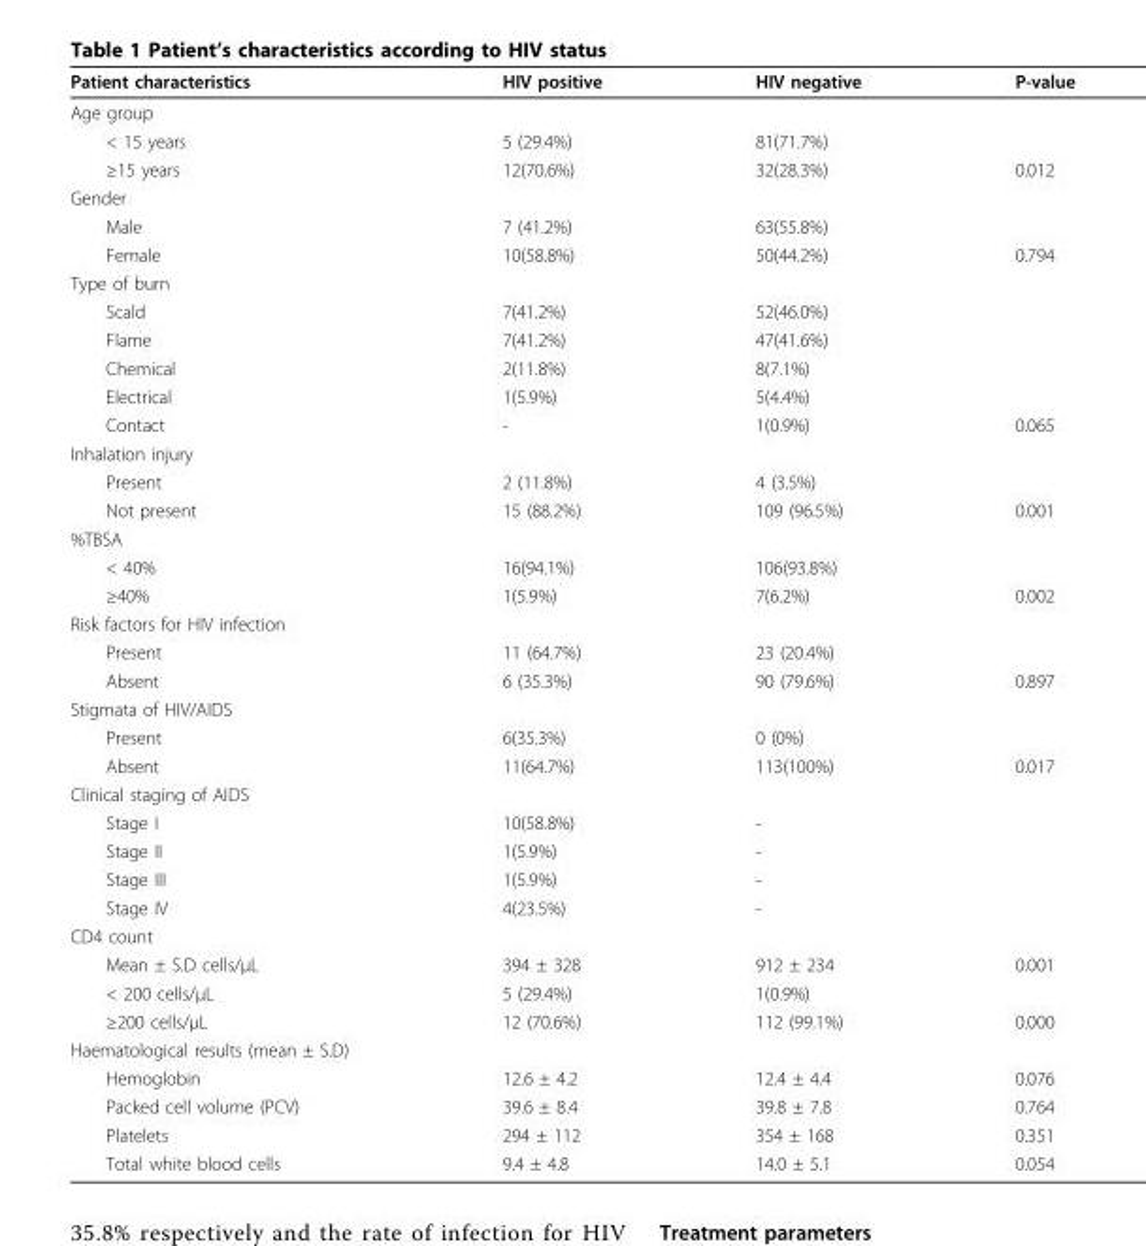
<table><thead><tr><td>Patient characteristics</td><td>HIV positive</td><td>HIV negative</td><td>P-value</td></tr></thead><tbody><tr><td colspan="4">Age group</td></tr><tr><td>&lt; 15 years</td><td>5 (29.4%)</td><td>81(71.7%)</td><td></td></tr><tr><td>≥15 years</td><td>12(70.6%)</td><td>32(28.3%)</td><td>0.012</td></tr><tr><td colspan="4">Gender</td></tr><tr><td>Male</td><td>7 (41.2%)</td><td>63(55.8%)</td><td></td></tr><tr><td>Female</td><td>10(58.8%)</td><td>50(44.2%)</td><td>0.794</td></tr><tr><td colspan="4">Type of burn</td></tr><tr><td>Scald</td><td>7(41.2%)</td><td>52(46.0%)</td><td></td></tr><tr><td>Flame</td><td>7(41.2%)</td><td>47(41.6%)</td><td></td></tr><tr><td>Chemical</td><td>2(11.8%)</td><td>8(7.1%)</td><td></td></tr><tr><td>Electrical</td><td>1(5.9%)</td><td>5(4.4%)</td><td></td></tr><tr><td>Contact</td><td>-</td><td>1(0.9%)</td><td>0.065</td></tr><tr><td colspan="4">Inhalation injury</td></tr><tr><td>Present</td><td>2 (11.8%)</td><td>4 (3.5%)</td><td></td></tr><tr><td>Not present</td><td>15 (88.2%)</td><td>109 (96.5%)</td><td>0.001</td></tr><tr><td colspan="4">%TBSA</td></tr><tr><td>&lt; 40%</td><td>16(94.1%)</td><td>106(93.8%)</td><td></td></tr><tr><td>≥40%</td><td>1(5.9%)</td><td>7(6.2%)</td><td>0.002</td></tr><tr><td colspan="4">Risk factors for HIV infection</td></tr><tr><td>Present</td><td>11 (64.7%)</td><td>23 (20.4%)</td><td></td></tr><tr><td>Absent</td><td>6 (35.3%)</td><td>90 (79.6%)</td><td>0.897</td></tr><tr><td colspan="4">Stigmata of HIV/AIDS</td></tr><tr><td>Present</td><td>6(35.3%)</td><td>0 (0%)</td><td></td></tr><tr><td>Absent</td><td>11(64.7%)</td><td>113(100%)</td><td>0.017</td></tr><tr><td colspan="4">Clinical staging of AIDS</td></tr><tr><td>Stage I</td><td>10(58.8%)</td><td>-</td><td></td></tr><tr><td>Stage II</td><td>1(5.9%)</td><td>-</td><td></td></tr><tr><td>Stage III</td><td>1(5.9%)</td><td>-</td><td></td></tr><tr><td>Stage IV</td><td>4(23.5%)</td><td>-</td><td></td></tr><tr><td colspan="4">CD4 count</td></tr><tr><td>Mean ± S.D cells/μL</td><td>394 ± 328</td><td>912 ± 234</td><td>0.001</td></tr><tr><td>&lt; 200 cells/μL</td><td>5 (29.4%)</td><td>1(0.9%)</td><td></td></tr><tr><td>≥200 cells/μL</td><td>12 (70.6%)</td><td>112 (99.1%)</td><td>0.000</td></tr><tr><td colspan="4">Haematological results (mean ± S.D)</td></tr><tr><td>Hemoglobin</td><td>12.6 ± 4.2</td><td>12.4 ± 4.4</td><td>0.076</td></tr><tr><td>Packed cell volume (PCV)</td><td>39.6 ± 8.4</td><td>39.8 ± 7.8</td><td>0.764</td></tr><tr><td>Platelets</td><td>294 ± 112</td><td>354 ± 168</td><td>0.351</td></tr><tr><td>Total white blood cells</td><td>9.4 ± 4.8</td><td>14.0 ± 5.1</td><td>0.054</td></tr></tbody></table>